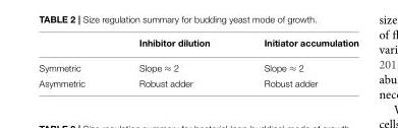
<table><thead><tr><td></td><td>Inhibitor dilution</td><td>Initiator accumulation</td></tr></thead><tbody><tr><td>Symmetric</td><td>Slope ≈ 2</td><td>Slope ≈ 2</td></tr><tr><td>Asymmetric</td><td>Robust adder</td><td>Robust adder</td></tr></tbody></table>